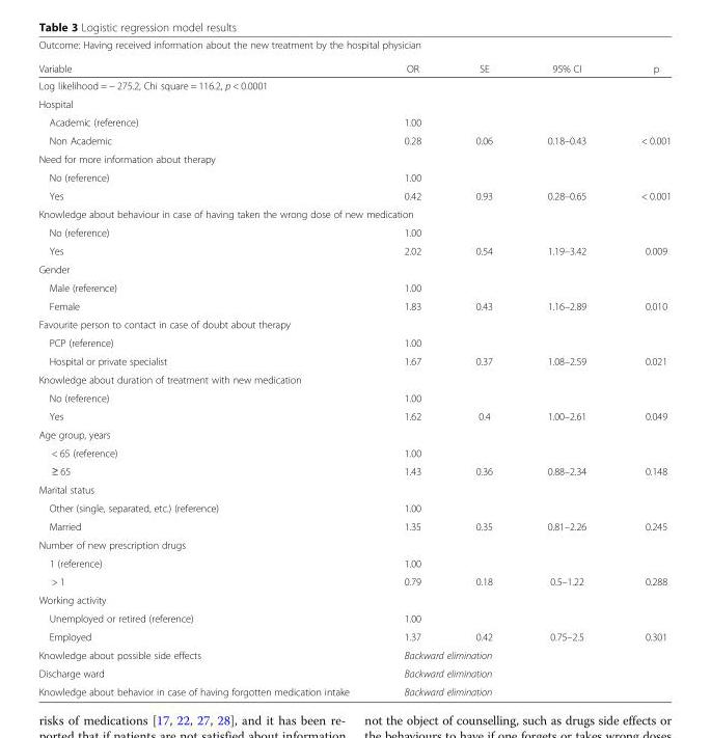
<table><thead><tr><td colspan="5">Outcome: Having received information about the new treatment by the hospital physician</td></tr><tr><td>Variable</td><td>OR</td><td>SE</td><td>95% CI</td><td>p</td></tr></thead><tbody><tr><td colspan="5">Log likelihood = − 275.2, Chi square = 116.2, p &lt; 0.0001</td></tr><tr><td colspan="5">Hospital</td></tr><tr><td>Academic (reference)</td><td>1.00</td><td></td><td></td><td></td></tr><tr><td>Non Academic</td><td>0.28</td><td>0.06</td><td>0.18–0.43</td><td>&lt; 0.001</td></tr><tr><td colspan="5">Need for more information about therapy</td></tr><tr><td>No (reference)</td><td>1.00</td><td></td><td></td><td></td></tr><tr><td>Yes</td><td>0.42</td><td>0.93</td><td>0.28–0.65</td><td>&lt; 0.001</td></tr><tr><td colspan="5">Knowledge about behaviour in case of having taken the wrong dose of new medication</td></tr><tr><td>No (reference)</td><td>1.00</td><td></td><td></td><td></td></tr><tr><td>Yes</td><td>2.02</td><td>0.54</td><td>1.19–3.42</td><td>0.009</td></tr><tr><td colspan="5">Gender</td></tr><tr><td>Male (reference)</td><td>1.00</td><td></td><td></td><td></td></tr><tr><td>Female</td><td>1.83</td><td>0.43</td><td>1.16–2.89</td><td>0.010</td></tr><tr><td colspan="5">Favourite person to contact in case of doubt about therapy</td></tr><tr><td>PCP (reference)</td><td>1.00</td><td></td><td></td><td></td></tr><tr><td>Hospital or private specialist</td><td>1.67</td><td>0.37</td><td>1.08–2.59</td><td>0.021</td></tr><tr><td colspan="5">Knowledge about duration of treatment with new medication</td></tr><tr><td>No (reference)</td><td>1.00</td><td></td><td></td><td></td></tr><tr><td>Yes</td><td>1.62</td><td>0.4</td><td>1.00–2.61</td><td>0.049</td></tr><tr><td colspan="5">Age group, years</td></tr><tr><td>&lt; 65 (reference)</td><td>1.00</td><td></td><td></td><td></td></tr><tr><td>≥ 65</td><td>1.43</td><td>0.36</td><td>0.88–2.34</td><td>0.148</td></tr><tr><td colspan="5">Marital status</td></tr><tr><td>Other (single, separated, etc.) (reference)</td><td>1.00</td><td></td><td></td><td></td></tr><tr><td>Married</td><td>1.35</td><td>0.35</td><td>0.81–2.26</td><td>0.245</td></tr><tr><td colspan="5">Number of new prescription drugs</td></tr><tr><td>1 (reference)</td><td>1.00</td><td></td><td></td><td></td></tr><tr><td>&gt; 1</td><td>0.79</td><td>0.18</td><td>0.5–1.22</td><td>0.288</td></tr><tr><td colspan="5">Working activity</td></tr><tr><td>Unemployed or retired (reference)</td><td>1.00</td><td></td><td></td><td></td></tr><tr><td>Employed</td><td>1.37</td><td>0.42</td><td>0.75–2.5</td><td>0.301</td></tr><tr><td>Knowledge about possible side effects</td><td colspan="4">Backward elimination</td></tr><tr><td>Discharge ward</td><td colspan="4">Backward elimination</td></tr><tr><td>Knowledge about behavior in case of having forgotten medication intake</td><td colspan="4">Backward elimination</td></tr></tbody></table>